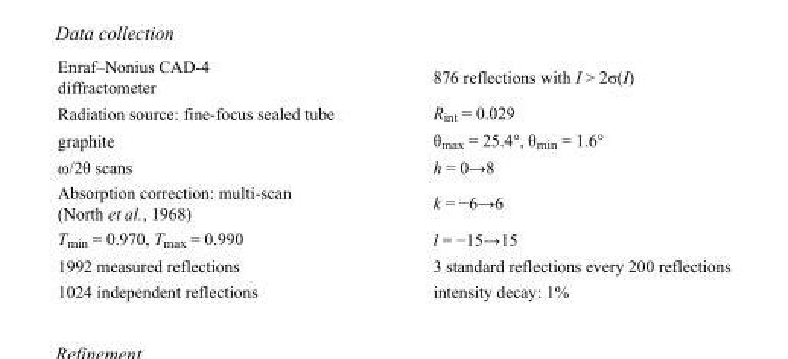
<table><tbody><tr><td>Enraf–Nonius CAD-4 diffractometer</td><td>876 reflections with I &gt; 2σ(I)</td></tr><tr><td>Radiation source: fine-focus sealed tube</td><td>R<sub>int</sub> = 0.029</td></tr><tr><td>graphite</td><td>θ<sub>max</sub> = 25.4°, θ<sub>min</sub> = 1.6°</td></tr><tr><td>ω/2θ scans</td><td>h = 0→8</td></tr><tr><td>Absorption correction: multi-scan (North et al., 1968)</td><td>k = −6→6</td></tr><tr><td>T<sub>min</sub> = 0.970, T<sub>max</sub> = 0.990</td><td>l = −15→15</td></tr><tr><td>1992 measured reflections</td><td>3 standard reflections every 200 reflections</td></tr><tr><td>1024 independent reflections</td><td>intensity decay: 1%</td></tr></tbody></table>